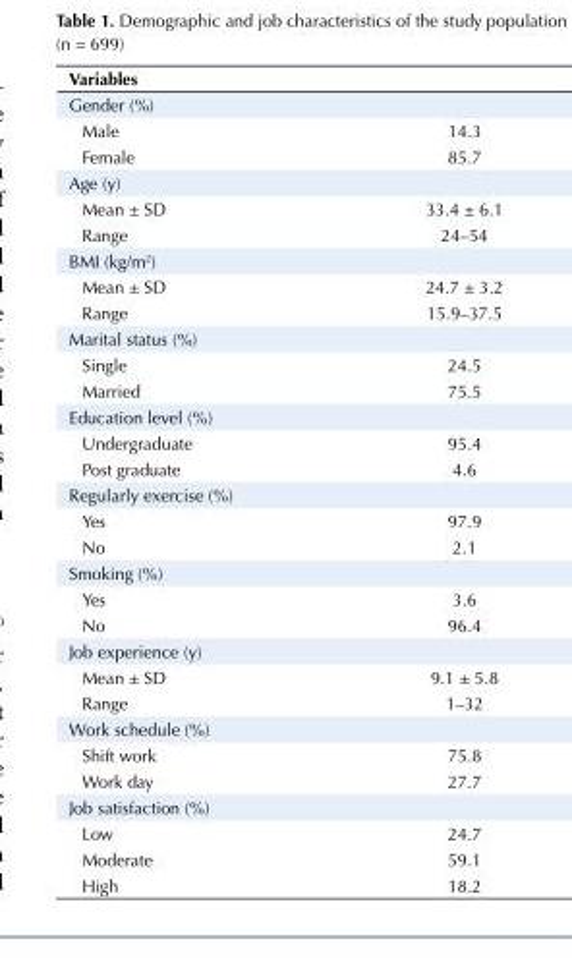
<table><tbody><tr><td colspan="2">Variables</td></tr><tr><td colspan="2">Gender (%)</td></tr><tr><td>Male</td><td>14.3</td></tr><tr><td>Female</td><td>85.7</td></tr><tr><td colspan="2">Age (y)</td></tr><tr><td>Mean ± SD</td><td>33.4 ± 6.1</td></tr><tr><td>Range</td><td>24–54</td></tr><tr><td colspan="2">BMI (kg/m<sup>2</sup>)</td></tr><tr><td>Mean ± SD</td><td>24.7 ± 3.2</td></tr><tr><td>Range</td><td>15.9–37.5</td></tr><tr><td colspan="2">Marital status (%)</td></tr><tr><td>Single</td><td>24.5</td></tr><tr><td>Married</td><td>75.5</td></tr><tr><td colspan="2">Education level (%)</td></tr><tr><td>Undergraduate</td><td>95.4</td></tr><tr><td>Post graduate</td><td>4.6</td></tr><tr><td colspan="2">Regularly exercise (%)</td></tr><tr><td>Yes</td><td>97.9</td></tr><tr><td>No</td><td>2.1</td></tr><tr><td colspan="2">Smoking (%)</td></tr><tr><td>Yes</td><td>3.6</td></tr><tr><td>No</td><td>96.4</td></tr><tr><td colspan="2">Job experience (y)</td></tr><tr><td>Mean ± SD</td><td>9.1 ± 5.8</td></tr><tr><td>Range</td><td>1–32</td></tr><tr><td colspan="2">Work schedule (%)</td></tr><tr><td>Shift work</td><td>75.8</td></tr><tr><td>Work day</td><td>27.7</td></tr><tr><td colspan="2">Job satisfaction (%)</td></tr><tr><td>Low</td><td>24.7</td></tr><tr><td>Moderate</td><td>59.1</td></tr><tr><td>High</td><td>18.2</td></tr></tbody></table>